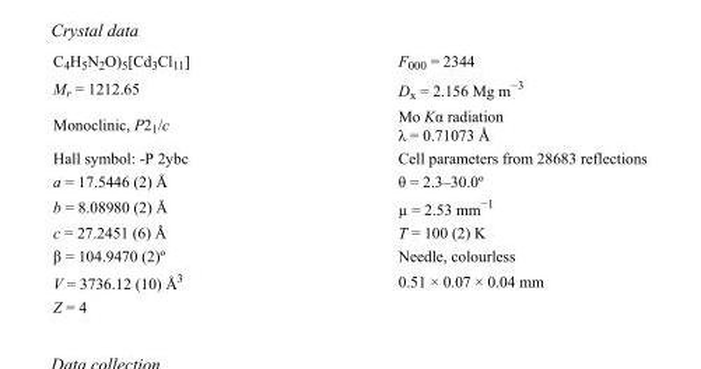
<table><tbody><tr><td>C<sub>4</sub>H<sub>5</sub>N<sub>2</sub>O)<sub>5</sub>[Cd<sub>3</sub>Cl<sub>11</sub>]</td><td>F<sub>000</sub> = 2344</td></tr><tr><td>M<sub>r</sub> = 1212.65</td><td>D<sub>x</sub> = 2.156 Mg m<sup>−3</sup></td></tr><tr><td>Monoclinic, P2<sub>1</sub>/c</td><td>Mo Kα radiation λ = 0.71073 Å</td></tr><tr><td>Hall symbol: -P 2ybc</td><td>Cell parameters from 28683 reflections</td></tr><tr><td>a = 17.5446 (2) Å</td><td>θ = 2.3–30.0º</td></tr><tr><td>b = 8.08980 (2) Å</td><td>µ = 2.53 mm<sup>−1</sup></td></tr><tr><td>c = 27.2451 (6) Å</td><td>T = 100 (2) K</td></tr><tr><td>β = 104.9470 (2)º</td><td>Needle, colourless</td></tr><tr><td>V = 3736.12 (10) Å<sup>3</sup></td><td>0.51 × 0.07 × 0.04 mm</td></tr><tr><td>Z = 4</td><td></td></tr></tbody></table>